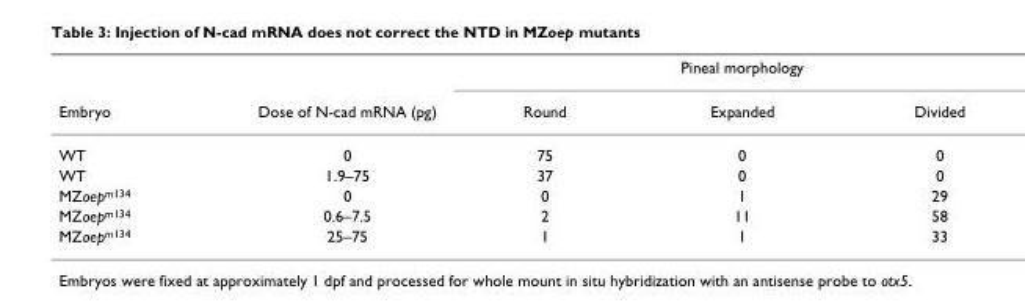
<table><thead><tr><td rowspan="2">Embryo</td><td rowspan="2">Dose of N-cad mRNA (pg)</td><td colspan="3">Pineal morphology</td></tr><tr><td>Round</td><td>Expanded</td><td>Divided</td></tr></thead><tbody><tr><td>WT</td><td>0</td><td>75</td><td>0</td><td>0</td></tr><tr><td>WT</td><td>1.9–75</td><td>37</td><td>0</td><td>0</td></tr><tr><td>MZoep<sup>m134</sup></td><td>0</td><td>0</td><td>1</td><td>29</td></tr><tr><td>MZoep<sup>m134</sup></td><td>0.6–7.5</td><td>2</td><td>11</td><td>58</td></tr><tr><td>MZoep<sup>m134</sup></td><td>25–75</td><td>1</td><td>1</td><td>33</td></tr></tbody></table>